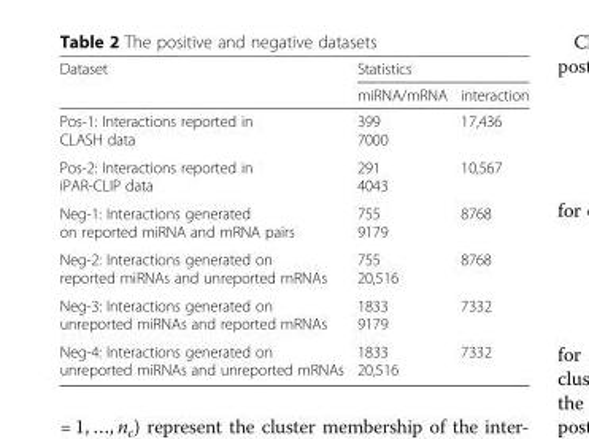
<table><thead><tr><td rowspan="2">Dataset</td><td colspan="2">Statistics</td></tr><tr><td>miRNA/mRNA</td><td>interaction</td></tr></thead><tbody><tr><td>Pos-1: Interactions reported in CLASH data</td><td>399 7000</td><td>17,436</td></tr><tr><td>Pos-2: Interactions reported in iPAR-CLIP data</td><td>291 4043</td><td>10,567</td></tr><tr><td>Neg-1: Interactions generated on reported miRNA and mRNA pairs</td><td>755 9179</td><td>8768</td></tr><tr><td>Neg-2: Interactions generated on reported miRNAs and unreported mRNAs</td><td>755 20,516</td><td>8768</td></tr><tr><td>Neg-3: Interactions generated on unreported miRNAs and reported mRNAs</td><td>1833 9179</td><td>7332</td></tr><tr><td>Neg-4: Interactions generated on unreported miRNAs and unreported mRNAs</td><td>1833 20,516</td><td>7332</td></tr></tbody></table>